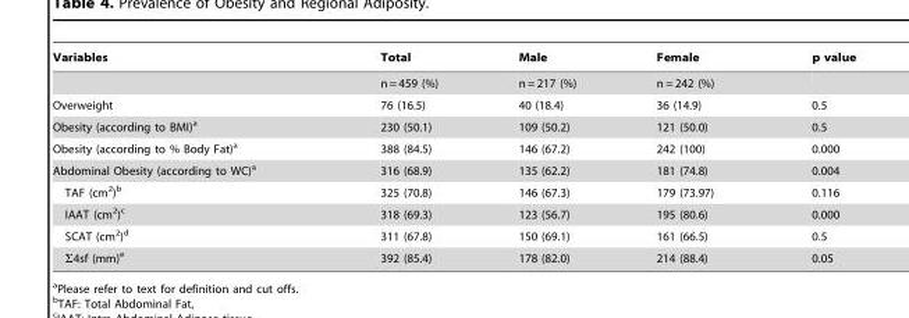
<table><thead><tr><td>Variables</td><td>Total</td><td>Male</td><td>Female</td><td>p value</td></tr></thead><tbody><tr><td></td><td>n = 459 (%)</td><td>n = 217 (%)</td><td>n = 242 (%)</td><td></td></tr><tr><td>Overweight</td><td>76 (16.5)</td><td>40 (18.4)</td><td>36 (14.9)</td><td>0.5</td></tr><tr><td>Obesity (according to BMI)<sup>a</sup></td><td>230 (50.1)</td><td>109 (50.2)</td><td>121 (50.0)</td><td>0.5</td></tr><tr><td>Obesity (according to % Body Fat)<sup>a</sup></td><td>388 (84.5)</td><td>146 (67.2)</td><td>242 (100)</td><td>0.000</td></tr><tr><td>Abdominal Obesity (according to WC)<sup>a</sup></td><td>316 (68.9)</td><td>135 (62.2)</td><td>181 (74.8)</td><td>0.004</td></tr><tr><td>TAF (cm<sup>2</sup>)<sup>b</sup></td><td>325 (70.8)</td><td>146 (67.3)</td><td>179 (73.97)</td><td>0.116</td></tr><tr><td>IAAT (cm<sup>2</sup>)<sup>c</sup></td><td>318 (69.3)</td><td>123 (56.7)</td><td>195 (80.6)</td><td>0.000</td></tr><tr><td>SCAT (cm<sup>2</sup>)<sup>d</sup></td><td>311 (67.8)</td><td>150 (69.1)</td><td>161 (66.5)</td><td>0.5</td></tr><tr><td>Σ4sf (mm)<sup>e</sup></td><td>392 (85.4)</td><td>178 (82.0)</td><td>214 (88.4)</td><td>0.05</td></tr></tbody></table>